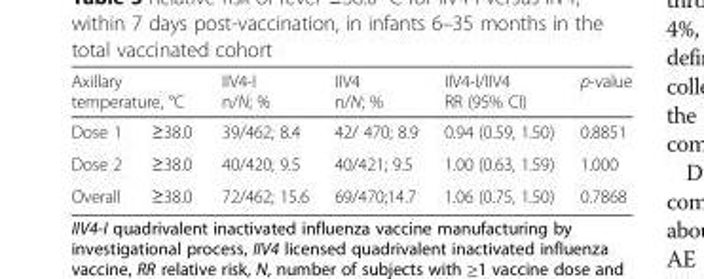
<table><thead><tr><td colspan="2">Axillary temperature, °C</td><td rowspan="2">IIV4-I n/N; % 39/462; 8.4</td><td rowspan="2">IIV4 n/N; % 42/ 470; 8.9</td><td rowspan="2">IIV4-I/IIV4 RR (95% CI) 0.94 (0.59, 1.50)</td><td rowspan="2">p-value 0.8851</td></tr><tr><td>Dose 1</td><td>≥38.0</td></tr></thead><tbody><tr><td>Dose 2</td><td>≥38.0</td><td>40/420; 9.5</td><td>40/421; 9.5</td><td>1.00 (0.63, 1.59)</td><td>1.000</td></tr><tr><td>Overall</td><td>≥38.0</td><td>72/462; 15.6</td><td>69/470;14.7</td><td>1.06 (0.75, 1.50)</td><td>0.7868</td></tr></tbody></table>